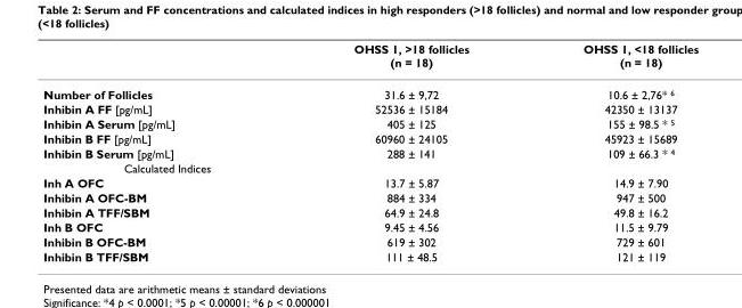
<table><thead><tr><td></td><td>OHSS 1, &gt;18 follicles (n = 18)</td><td>OHSS 1, &lt;18 follicles (n = 18)</td></tr></thead><tbody><tr><td>Number of Follicles</td><td>31.6 ± 9,72</td><td>10.6 ± 2,76* <sup>6</sup></td></tr><tr><td>Inhibin A FF [pg/mL]</td><td>52536 ± 15184</td><td>42350 ± 13137</td></tr><tr><td>Inhibin A Serum [pg/mL]</td><td>405 ± 125</td><td>155 ± 98.5 * <sup>5</sup></td></tr><tr><td>Inhibin B FF [pg/mL]</td><td>60960 ± 24105</td><td>45923 ± 15689</td></tr><tr><td>Inhibin B Serum [pg/mL]</td><td>288 ± 141</td><td>109 ± 66.3 * <sup>4</sup></td></tr><tr><td colspan="3">Calculated Indices</td></tr><tr><td>Inh A OFC</td><td>13.7 ± 5.87</td><td>14.9 ± 7.90</td></tr><tr><td>Inhibin A OFC-BM</td><td>884 ± 334</td><td>947 ± 500</td></tr><tr><td>Inhibin A TFF/SBM</td><td>64.9 ± 24.8</td><td>49.8 ± 16.2</td></tr><tr><td>Inh B OFC</td><td>9.45 ± 4.56</td><td>11.5 ± 9.79</td></tr><tr><td>Inhibin B OFC-BM</td><td>619 ± 302</td><td>729 ± 601</td></tr><tr><td>Inhibin B TFF/SBM</td><td>111 ± 48.5</td><td>121 ± 119</td></tr></tbody></table>